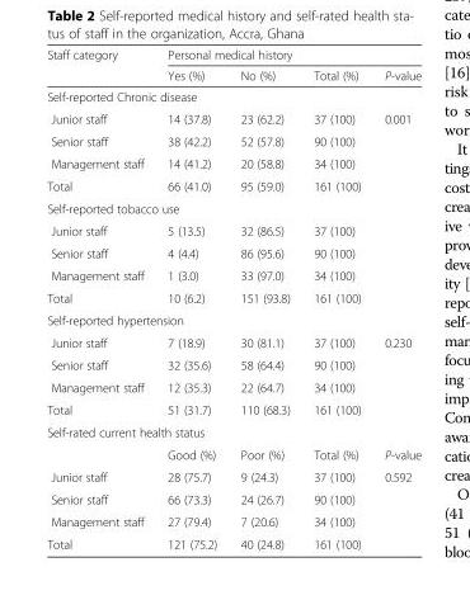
<table><thead><tr><td rowspan="2">Staff category</td><td colspan="4">Personal medical history</td></tr><tr><td>Yes (%)</td><td>No (%)</td><td>Total (%)</td><td>P-value</td></tr></thead><tbody><tr><td colspan="5">Self-reported Chronic disease</td></tr><tr><td>Junior staff</td><td>14 (37.8)</td><td>23 (62.2)</td><td>37 (100)</td><td rowspan="4">0.001</td></tr><tr><td>Senior staff</td><td>38 (42.2)</td><td>52 (57.8)</td><td>90 (100)</td></tr><tr><td>Management staff</td><td>14 (41.2)</td><td>20 (58.8)</td><td>34 (100)</td></tr><tr><td>Total</td><td>66 (41.0)</td><td>95 (59.0)</td><td>161 (100)</td></tr><tr><td colspan="5">Self-reported tobacco use</td></tr><tr><td>Junior staff</td><td>5 (13.5)</td><td>32 (86.5)</td><td>37 (100)</td><td rowspan="4"></td></tr><tr><td>Senior staff</td><td>4 (4.4)</td><td>86 (95.6)</td><td>90 (100)</td></tr><tr><td>Management staff</td><td>1 (3.0)</td><td>33 (97.0)</td><td>34 (100)</td></tr><tr><td>Total</td><td>10 (6.2)</td><td>151 (93.8)</td><td>161 (100)</td></tr><tr><td colspan="5">Self-reported hypertension</td></tr><tr><td>Junior staff</td><td>7 (18.9)</td><td>30 (81.1)</td><td>37 (100)</td><td rowspan="4">0.230</td></tr><tr><td>Senior staff</td><td>32 (35.6)</td><td>58 (64.4)</td><td>90 (100)</td></tr><tr><td>Management staff</td><td>12 (35.3)</td><td>22 (64.7)</td><td>34 (100)</td></tr><tr><td>Total</td><td>51 (31.7)</td><td>110 (68.3)</td><td>161 (100)</td></tr><tr><td colspan="5">Self-rated current health status</td></tr><tr><td></td><td>Good (%)</td><td>Poor (%)</td><td>Total (%)</td><td>P-value</td></tr><tr><td>Junior staff</td><td>28 (75.7)</td><td>9 (24.3)</td><td>37 (100)</td><td rowspan="4">0.592</td></tr><tr><td>Senior staff</td><td>66 (73.3)</td><td>24 (26.7)</td><td>90 (100)</td></tr><tr><td>Management staff</td><td>27 (79.4)</td><td>7 (20.6)</td><td>34 (100)</td></tr><tr><td>Total</td><td>121 (75.2)</td><td>40 (24.8)</td><td>161 (100)</td></tr></tbody></table>